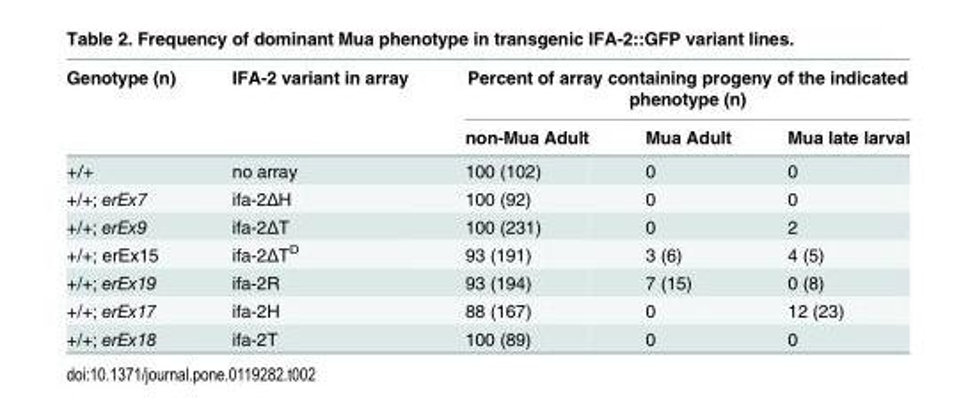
<table><thead><tr><td rowspan="2">Genotype (n)</td><td rowspan="2">IFA-2 variant in array</td><td colspan="3">Percent of array containing progeny of the indicated phenotype (n)</td></tr><tr><td>non-Mua Adult</td><td>Mua Adult</td><td>Mua late larval</td></tr></thead><tbody><tr><td>+/+</td><td>no array</td><td>100 (102)</td><td>0</td><td>0</td></tr><tr><td>+/+; erEx7</td><td>ifa-2ΔH</td><td>100 (92)</td><td>0</td><td>0</td></tr><tr><td>+/+; erEx9</td><td>ifa-2ΔT</td><td>100 (231)</td><td>0</td><td>2</td></tr><tr><td>+/+; erEx15</td><td>ifa-2ΔTD</td><td>93 (191)</td><td>3 (6)</td><td>4 (5)</td></tr><tr><td>+/+; erEx19</td><td>ifa-2R</td><td>93 (194)</td><td>7 (15)</td><td>0 (8)</td></tr><tr><td>+/+; erEx17</td><td>ifa-2H</td><td>88 (167)</td><td>0</td><td>12 (23)</td></tr><tr><td>+/+; erEx18</td><td>ifa-2T</td><td>100 (89)</td><td>0</td><td>0</td></tr></tbody></table>